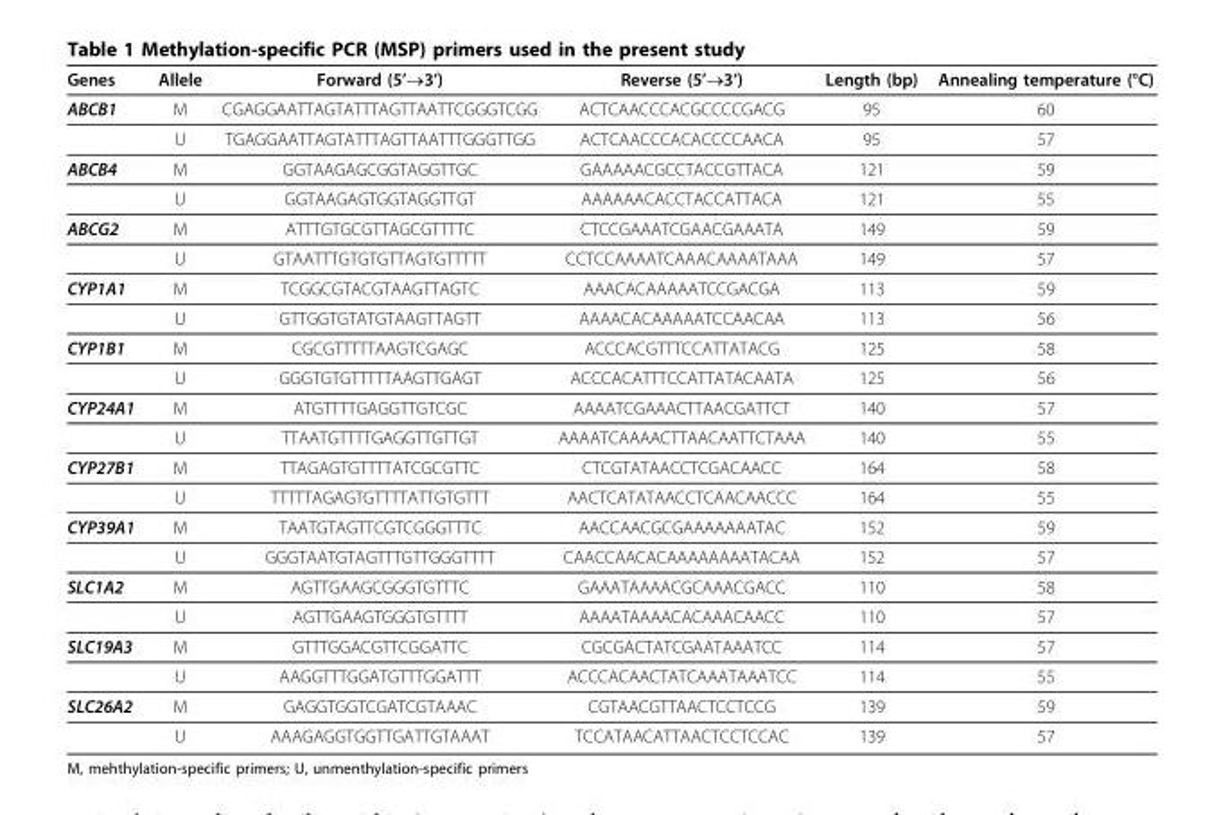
<table><thead><tr><td>Genes</td><td>Allele</td><td>Forward (5’→3’)</td><td>Reverse (5’→3’)</td><td>Length (bp)</td><td>Annealing temperature (°C)</td></tr></thead><tbody><tr><td rowspan="2">ABCB1</td><td>M</td><td>CGAGGAATTAGTATTTAGTTAATTCGGGTCGG</td><td>ACTCAACCCACGCCCCGACG</td><td>95</td><td>60</td></tr><tr><td>U</td><td>TGAGGAATTAGTATTTAGTTAATTTGGGTTGG</td><td>ACTCAACCCACACCCCAACA</td><td>95</td><td>57</td></tr><tr><td rowspan="2">ABCB4</td><td>M</td><td>GGTAAGAGCGGTAGGTTGC</td><td>GAAAAACGCCTACCGTTACA</td><td>121</td><td>59</td></tr><tr><td>U</td><td>GGTAAGAGTGGTAGGTTGT</td><td>AAAAAACACCTACCATTACA</td><td>121</td><td>55</td></tr><tr><td rowspan="2">ABCG2</td><td>M</td><td>ATTTGTGCGTTAGCGTTTTC</td><td>CTCCGAAATCGAACGAAATA</td><td>149</td><td>59</td></tr><tr><td>U</td><td>GTAATTTGTGTGTTAGTGTTTTT</td><td>CCTCCAAAATCAAACAAAATAAA</td><td>149</td><td>57</td></tr><tr><td rowspan="2">CYP1A1</td><td>M</td><td>TCGGCGTACGTAAGTTAGTC</td><td>AAACACAAAAATCCGACGA</td><td>113</td><td>59</td></tr><tr><td>U</td><td>GTTGGTGTATGTAAGTTAGTT</td><td>AAAACACAAAAATCCAACAA</td><td>113</td><td>56</td></tr><tr><td rowspan="2">CYP1B1</td><td>M</td><td>CGCGTTTTTAAGTCGAGC</td><td>ACCCACGTTTCCATTATACG</td><td>125</td><td>58</td></tr><tr><td>U</td><td>GGGTGTGTTTTTAAGTTGAGT</td><td>ACCCACATTTCCATTATACAATA</td><td>125</td><td>56</td></tr><tr><td rowspan="2">CYP24A1</td><td>M</td><td>ATGTTTTGAGGTTGTCGC</td><td>AAAATCGAAACTTAACGATTCT</td><td>140</td><td>57</td></tr><tr><td>U</td><td>TTAATGTTTTGAGGTTGTTGT</td><td>AAAATCAAAACTTAACAATTCTAAA</td><td>140</td><td>55</td></tr><tr><td rowspan="2">CYP27B1</td><td>M</td><td>TTAGAGTGTTTTATCGCGTTC</td><td>CTCGTATAACCTCGACAACC</td><td>164</td><td>58</td></tr><tr><td>U</td><td>TTTTTAGAGTGTTTTATTGTGTTT</td><td>AACTCATATAACCTCAACAACCC</td><td>164</td><td>55</td></tr><tr><td rowspan="2">CYP39A1</td><td>M</td><td>TAATGTAGTTCGTCGGGTTTC</td><td>AACCAACGCGAAAAAAATAC</td><td>152</td><td>59</td></tr><tr><td>U</td><td>GGGTAATGTAGTTTGTTGGGTTTT</td><td>CAACCAACACAAAAAAAATACAA</td><td>152</td><td>57</td></tr><tr><td rowspan="2">SLC1A2</td><td>M</td><td>AGTTGAAGCGGGTGTTTC</td><td>GAAATAAAACGCAAACGACC</td><td>110</td><td>58</td></tr><tr><td>U</td><td>AGTTGAAGTGGGTGTTTT</td><td>AAAATAAAACACAAACAACC</td><td>110</td><td>57</td></tr><tr><td rowspan="2">SLC19A3</td><td>M</td><td>GTTTGGACGTTCGGATTC</td><td>CGCGACTATCGAATAAATCC</td><td>114</td><td>57</td></tr><tr><td>U</td><td>AAGGTTTGGATGTTTGGATTT</td><td>ACCCACAACTATCAAATAAATCC</td><td>114</td><td>55</td></tr><tr><td rowspan="2">SLC26A2</td><td>M</td><td>GAGGTGGTCGATCGTAAAC</td><td>CGTAACGTTAACTCCTCCG</td><td>139</td><td>59</td></tr><tr><td>U</td><td>AAAGAGGTGGTTGATTGTAAAT</td><td>TCCATAACATTAACTCCTCCAC</td><td>139</td><td>57</td></tr></tbody></table>